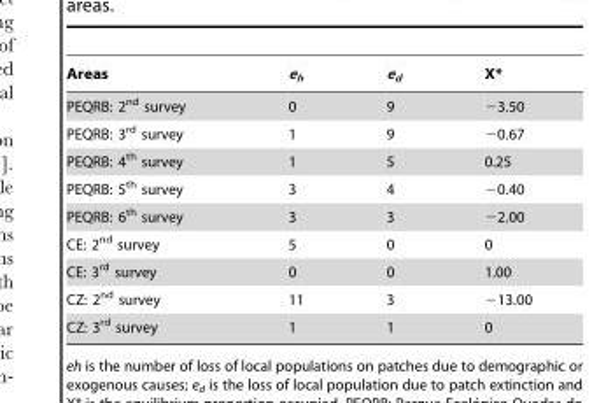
<table><thead><tr><td>Areas</td><td>e<sub>h</sub></td><td>e<sub>d</sub></td><td>X*</td></tr></thead><tbody><tr><td>PEQRB: 2<sup>nd</sup> survey</td><td>0</td><td>9</td><td>−3.50</td></tr><tr><td>PEQRB: 3<sup>rd</sup> survey</td><td>1</td><td>9</td><td>−0.67</td></tr><tr><td>PEQRB: 4<sup>th</sup> survey</td><td>1</td><td>5</td><td>0.25</td></tr><tr><td>PEQRB: 5<sup>th</sup> survey</td><td>3</td><td>4</td><td>−0.40</td></tr><tr><td>PEQRB: 6<sup>th</sup> survey</td><td>3</td><td>3</td><td>−2.00</td></tr><tr><td>CE: 2<sup>nd</sup> survey</td><td>5</td><td>0</td><td>0</td></tr><tr><td>CE: 3<sup>rd</sup> survey</td><td>0</td><td>0</td><td>1.00</td></tr><tr><td>CZ: 2<sup>nd</sup> survey</td><td>11</td><td>3</td><td>−13.00</td></tr><tr><td>CZ: 3<sup>rd</sup> survey</td><td>1</td><td>1</td><td>0</td></tr></tbody></table>